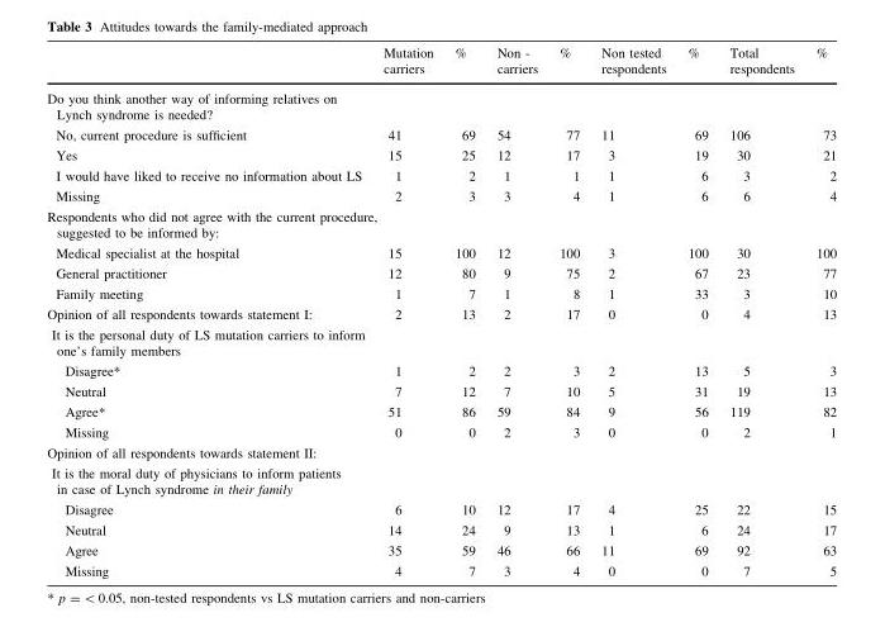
<table><thead><tr><td></td><td>Mutation carriers</td><td>%</td><td>Non - carriers</td><td>%</td><td>Non tested respondents</td><td>%</td><td>Total respondents</td><td>%</td></tr></thead><tbody><tr><td colspan="9">Do you think another way of informing relatives on Lynch syndrome is needed?</td></tr><tr><td>No, current procedure is sufficient</td><td>41</td><td>69</td><td>54</td><td>77</td><td>11</td><td>69</td><td>106</td><td>73</td></tr><tr><td>Yes</td><td>15</td><td>25</td><td>12</td><td>17</td><td>3</td><td>19</td><td>30</td><td>21</td></tr><tr><td>I would have liked to receive no information about LS</td><td>1</td><td>2</td><td>1</td><td>1</td><td>1</td><td>6</td><td>3</td><td>2</td></tr><tr><td>Missing</td><td>2</td><td>3</td><td>3</td><td>4</td><td>1</td><td>6</td><td>6</td><td>4</td></tr><tr><td colspan="9">Respondents who did not agree with the current procedure, suggested to be informed by:</td></tr><tr><td>Medical specialist at the hospital</td><td>15</td><td>100</td><td>12</td><td>100</td><td>3</td><td>100</td><td>30</td><td>100</td></tr><tr><td>General practitioner</td><td>12</td><td>80</td><td>9</td><td>75</td><td>2</td><td>67</td><td>23</td><td>77</td></tr><tr><td>Family meeting</td><td>1</td><td>7</td><td>1</td><td>8</td><td>1</td><td>33</td><td>3</td><td>10</td></tr><tr><td>Opinion of all respondents towards statement I:</td><td>2</td><td>13</td><td>2</td><td>17</td><td>0</td><td>0</td><td>4</td><td>13</td></tr><tr><td colspan="9">It is the personal duty of LS mutation carriers to inform one’s family members</td></tr><tr><td>Disagree*</td><td>1</td><td>2</td><td>2</td><td>3</td><td>2</td><td>13</td><td>5</td><td>3</td></tr><tr><td>Neutral</td><td>7</td><td>12</td><td>7</td><td>10</td><td>5</td><td>31</td><td>19</td><td>13</td></tr><tr><td>Agree*</td><td>51</td><td>86</td><td>59</td><td>84</td><td>9</td><td>56</td><td>119</td><td>82</td></tr><tr><td>Missing</td><td>0</td><td>0</td><td>2</td><td>3</td><td>0</td><td>0</td><td>2</td><td>1</td></tr><tr><td colspan="9">Opinion of all respondents towards statement II:</td></tr><tr><td colspan="9">It is the moral duty of physicians to inform patients in case of Lynch syndrome in their family</td></tr><tr><td>Disagree</td><td>6</td><td>10</td><td>12</td><td>17</td><td>4</td><td>25</td><td>22</td><td>15</td></tr><tr><td>Neutral</td><td>14</td><td>24</td><td>9</td><td>13</td><td>1</td><td>6</td><td>24</td><td>17</td></tr><tr><td>Agree</td><td>35</td><td>59</td><td>46</td><td>66</td><td>11</td><td>69</td><td>92</td><td>63</td></tr><tr><td>Missing</td><td>4</td><td>7</td><td>3</td><td>4</td><td>0</td><td>0</td><td>7</td><td>5</td></tr></tbody></table>